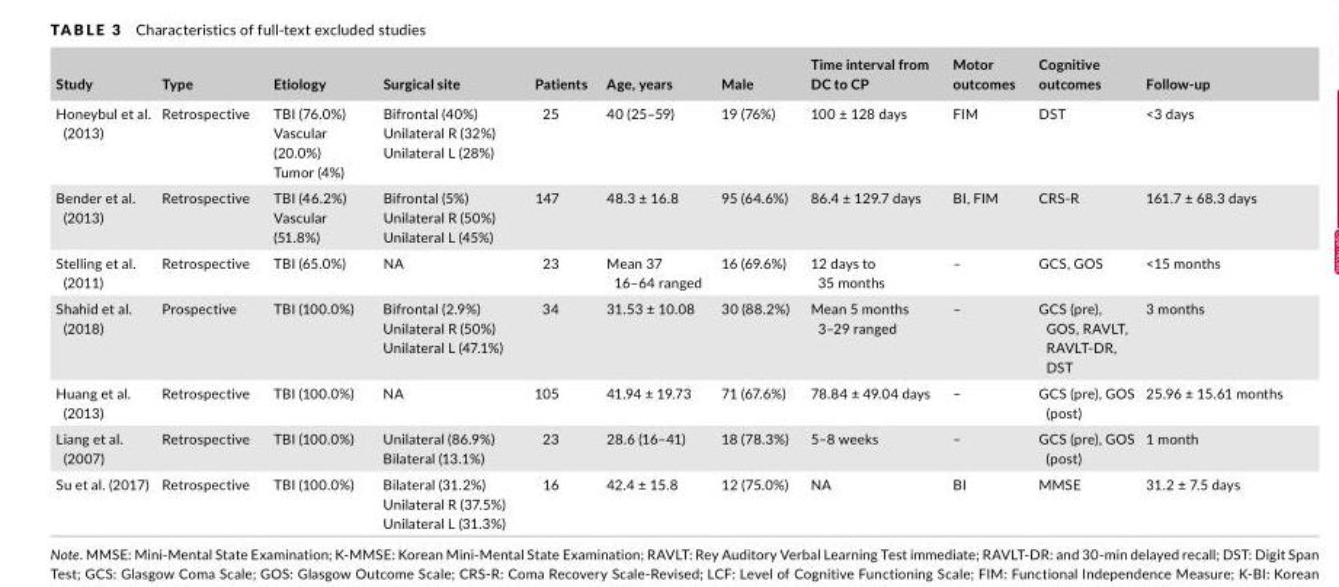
<table><thead><tr><td>Study</td><td>Type</td><td>Etiology</td><td>Surgical site</td><td>Patients</td><td>Age, years</td><td>Male</td><td>Time interval from DC to CP</td><td>Motor outcomes</td><td>Cognitive outcomes</td><td>Follow‐up</td></tr></thead><tbody><tr><td>Honeybul et al. (2013)</td><td>Retrospective</td><td>TBI (76.0%) Vascular (20.0%) Tumor (4%)</td><td>Bifrontal (40%) Unilateral R (32%) Unilateral L (28%)</td><td>25</td><td>40 (25–59)</td><td>19 (76%)</td><td>100 ± 128 days</td><td>FIM</td><td>DST</td><td>&lt;3 days</td></tr><tr><td>Bender et al. (2013)</td><td>Retrospective</td><td>TBI (46.2%) Vascular (51.8%)</td><td>Bifrontal (5%) Unilateral R (50%) Unilateral L (45%)</td><td>147</td><td>48.3 ± 16.8</td><td>95 (64.6%)</td><td>86.4 ± 129.7 days</td><td>BI, FIM</td><td>CRS‐R</td><td>161.7 ± 68.3 days</td></tr><tr><td>Stelling et al. (2011)</td><td>Retrospective</td><td>TBI (65.0%)</td><td>NA</td><td>23</td><td>Mean 37 16–64 ranged</td><td>16 (69.6%)</td><td>12 days to 35 months</td><td>–</td><td>GCS, GOS</td><td>&lt;15 months</td></tr><tr><td>Shahid et al. (2018)</td><td>Prospective</td><td>TBI (100.0%)</td><td>Bifrontal (2.9%) Unilateral R (50%) Unilateral L (47.1%)</td><td>34</td><td>31.53 ± 10.08</td><td>30 (88.2%)</td><td>Mean 5 months 3–29 ranged</td><td>–</td><td>GCS (pre), GOS, RAVLT, RAVLT‐DR, DST</td><td>3 months</td></tr><tr><td>Huang et al. (2013)</td><td>Retrospective</td><td>TBI (100.0%)</td><td>NA</td><td>105</td><td>41.94 ± 19.73</td><td>71 (67.6%)</td><td>78.84 ± 49.04 days</td><td>–</td><td>GCS (pre), GOS (post)</td><td>25.96 ± 15.61 months</td></tr><tr><td>Liang et al. (2007)</td><td>Retrospective</td><td>TBI (100.0%)</td><td>Unilateral (86.9%) Bilateral (13.1%)</td><td>23</td><td>28.6 (16–41)</td><td>18 (78.3%)</td><td>5–8 weeks</td><td>–</td><td>GCS (pre), GOS (post)</td><td>1 month</td></tr><tr><td>Su et al. (2017)</td><td>Retrospective</td><td>TBI (100.0%)</td><td>Bilateral (31.2%) Unilateral R (37.5%) Unilateral L (31.3%)</td><td>16</td><td>42.4 ± 15.8</td><td>12 (75.0%)</td><td>NA</td><td>BI</td><td>MMSE</td><td>31.2 ± 7.5 days</td></tr></tbody></table>